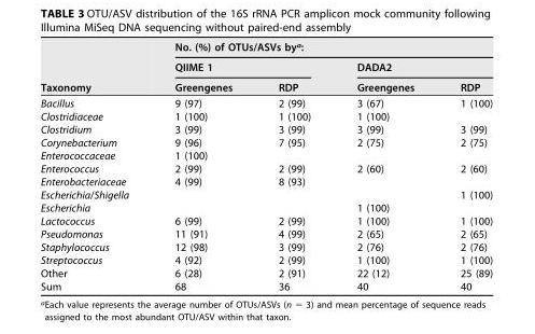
<table><thead><tr><td rowspan="3">Taxonomy</td><td colspan="4">No. (%) of OTUs/ASVs by<sup>a</sup>:</td></tr><tr><td colspan="2">QIIME 1</td><td colspan="2">DADA2</td></tr><tr><td>Greengenes</td><td>RDP</td><td>Greengenes</td><td>RDP</td></tr></thead><tbody><tr><td>Bacillus</td><td>9 (97)</td><td>2 (99)</td><td>3 (67)</td><td>1 (100)</td></tr><tr><td>Clostridiaceae</td><td>1 (100)</td><td>1 (100)</td><td>1 (100)</td><td></td></tr><tr><td>Clostridium</td><td>3 (99)</td><td>3 (99)</td><td>3 (99)</td><td>3 (99)</td></tr><tr><td>Corynebacterium</td><td>9 (96)</td><td>7 (95)</td><td>2 (75)</td><td>2 (75)</td></tr><tr><td>Enterococcaceae</td><td>1 (100)</td><td></td><td></td><td></td></tr><tr><td>Enterococcus</td><td>2 (99)</td><td>2 (99)</td><td>2 (60)</td><td>2 (60)</td></tr><tr><td>Enterobacteriaceae</td><td>4 (99)</td><td>8 (93)</td><td></td><td></td></tr><tr><td>Escherichia/Shigella</td><td></td><td></td><td></td><td>1 (100)</td></tr><tr><td>Escherichia</td><td></td><td></td><td>1 (100)</td><td></td></tr><tr><td>Lactococcus</td><td>6 (99)</td><td>2 (99)</td><td>1 (100)</td><td>1 (100)</td></tr><tr><td>Pseudomonas</td><td>11 (91)</td><td>4 (99)</td><td>2 (65)</td><td>2 (65)</td></tr><tr><td>Staphylococcus</td><td>12 (98)</td><td>3 (99)</td><td>2 (76)</td><td>2 (76)</td></tr><tr><td>Streptococcus</td><td>4 (92)</td><td>2 (99)</td><td>1 (100)</td><td>1 (100)</td></tr><tr><td>Other</td><td>6 (28)</td><td>2 (91)</td><td>22 (12)</td><td>25 (89)</td></tr><tr><td>Sum</td><td>68</td><td>36</td><td>40</td><td>40</td></tr></tbody></table>